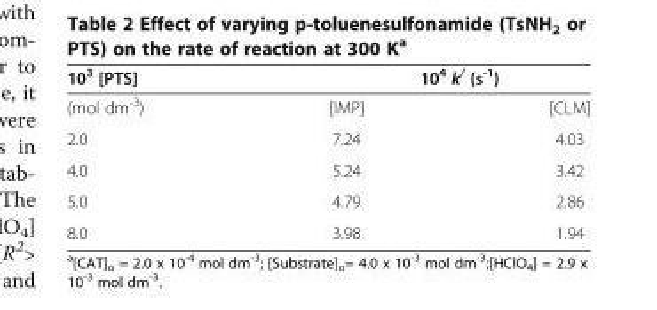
<table><thead><tr><td rowspan="2">10<sup>3</sup> [PTS] (mol dm<sup>-3</sup>)</td><td colspan="2">10<sup>4</sup> k<sup>/</sup> (s<sup>-1</sup>)</td></tr><tr><td>[IMP]</td><td>[CLM]</td></tr></thead><tbody><tr><td>2.0</td><td>7.24</td><td>4.03</td></tr><tr><td>4.0</td><td>5.24</td><td>3.42</td></tr><tr><td>5.0</td><td>4.79</td><td>2.86</td></tr><tr><td>8.0</td><td>3.98</td><td>1.94</td></tr></tbody></table>